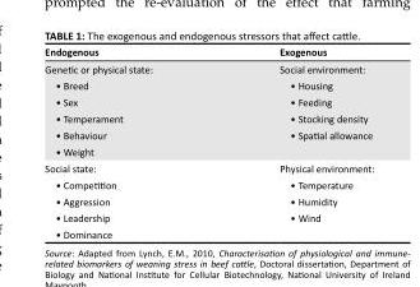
<table><thead><tr><td>Endogenous</td><td>Exogenous</td></tr></thead><tbody><tr><td>Genetic or physical state:</td><td>Social environment:</td></tr><tr><td>• Breed</td><td>• Housing</td></tr><tr><td>• Sex</td><td>• Feeding</td></tr><tr><td>• Temperament</td><td>• Stocking density</td></tr><tr><td>• Behaviour</td><td>• Spatial allowance</td></tr><tr><td colspan="2">• Weight</td></tr><tr><td>Social state:</td><td>Physical environment:</td></tr><tr><td>• Competition</td><td>• Temperature</td></tr><tr><td>• Aggression</td><td>• Humidity</td></tr><tr><td>• Leadership</td><td>• Wind</td></tr><tr><td>• Dominance</td><td></td></tr></tbody></table>